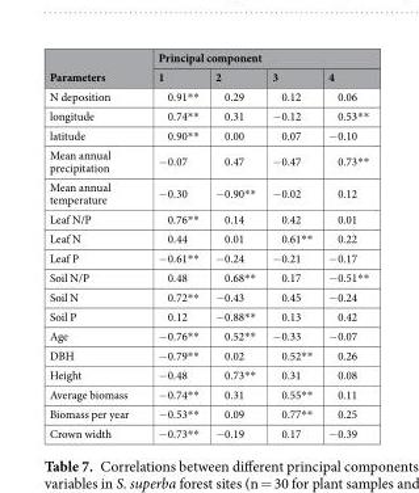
<table><thead><tr><td rowspan="2">Parameters</td><td colspan="4">Principal component</td></tr><tr><td>1</td><td>2</td><td>3</td><td>4</td></tr></thead><tbody><tr><td>N deposition</td><td>0.91**</td><td>0.29</td><td>0.12</td><td>0.06</td></tr><tr><td>longitude</td><td>0.74**</td><td>0.31</td><td>−0.12</td><td>0.53**</td></tr><tr><td>latitude</td><td>0.90**</td><td>0.00</td><td>0.07</td><td>−0.10</td></tr><tr><td>Mean annual precipitation</td><td>−0.07</td><td>0.47</td><td>−0.47</td><td>0.73**</td></tr><tr><td>Mean annual temperature</td><td>−0.30</td><td>−0.90**</td><td>−0.02</td><td>0.12</td></tr><tr><td>Leaf N/P</td><td>0.76**</td><td>0.14</td><td>0.42</td><td>0.01</td></tr><tr><td>Leaf N</td><td>0.44</td><td>0.01</td><td>0.61**</td><td>0.22</td></tr><tr><td>Leaf P</td><td>−0.61**</td><td>−0.24</td><td>−0.21</td><td>−0.17</td></tr><tr><td>Soil N/P</td><td>0.48</td><td>0.68**</td><td>0.17</td><td>−0.51**</td></tr><tr><td>Soil N</td><td>0.72**</td><td>−0.43</td><td>0.45</td><td>−0.24</td></tr><tr><td>Soil P</td><td>0.12</td><td>−0.88**</td><td>0.13</td><td>0.42</td></tr><tr><td>Age</td><td>−0.76**</td><td>0.52**</td><td>−0.33</td><td>−0.07</td></tr><tr><td>DBH</td><td>−0.79**</td><td>0.02</td><td>0.52**</td><td>0.26</td></tr><tr><td>Height</td><td>−0.48</td><td>0.73**</td><td>0.31</td><td>0.08</td></tr><tr><td>Average biomass</td><td>−0.74**</td><td>0.31</td><td>0.55**</td><td>0.11</td></tr><tr><td>Biomass per year</td><td>−0.53**</td><td>0.09</td><td>0.77**</td><td>0.25</td></tr><tr><td>Crown width</td><td>−0.73**</td><td>−0.19</td><td>0.17</td><td>−0.39</td></tr></tbody></table>